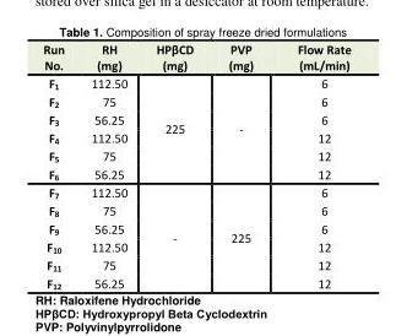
<table><tbody><tr><td>Run No.</td><td>RH (mg)</td><td>HPβCD (mg)</td><td>PVP (mg)</td><td>Flow Rate (mL/min)</td></tr><tr><td>F<sub>1</sub></td><td>112.50</td><td rowspan="6">225</td><td rowspan="6">-</td><td>6</td></tr><tr><td>F<sub>2</sub></td><td>75</td><td>6</td></tr><tr><td>F<sub>3</sub></td><td>56.25</td><td>6</td></tr><tr><td>F<sub>4</sub></td><td>112.50</td><td>12</td></tr><tr><td>F<sub>5</sub></td><td>75</td><td>12</td></tr><tr><td>F<sub>6</sub></td><td>56.25</td><td>12</td></tr><tr><td>F<sub>7</sub></td><td>112.50</td><td rowspan="6">-</td><td rowspan="6">225</td><td>6</td></tr><tr><td>F<sub>8</sub></td><td>75</td><td>6</td></tr><tr><td>F<sub>9</sub></td><td>56.25</td><td>6</td></tr><tr><td>F<sub>10</sub></td><td>112.50</td><td>12</td></tr><tr><td>F<sub>11</sub></td><td>75</td><td>12</td></tr><tr><td>F<sub>12</sub></td><td>56.25</td><td>12</td></tr></tbody></table>